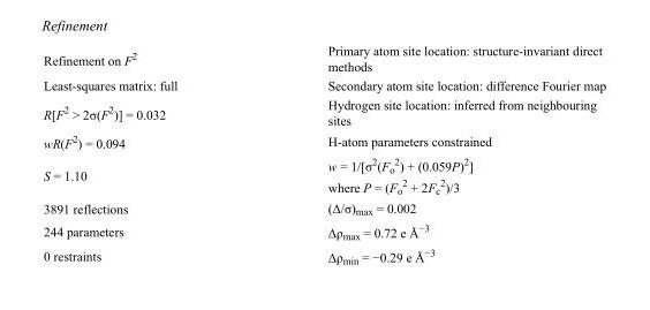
<table><tbody><tr><td>Refinement on F<sup>2</sup></td><td>Primary atom site location: structure-invariant direct methods</td></tr><tr><td>Least-squares matrix: full</td><td>Secondary atom site location: difference Fourier map</td></tr><tr><td>R[F<sup>2</sup> &gt; 2σ(F<sup>2</sup>)] = 0.032</td><td>Hydrogen site location: inferred from neighbouring sites</td></tr><tr><td>wR(F<sup>2</sup>) = 0.094</td><td>H-atom parameters constrained</td></tr><tr><td>S = 1.10</td><td>w = 1/[σ<sup>2</sup>(F<sub>o</sub> <sup>2</sup>) + (0.059P)<sup>2</sup>] where P = (F<sub>o</sub> <sup>2</sup> + 2F<sub>c</sub> <sup>2</sup>)/3</td></tr><tr><td>3891 reflections</td><td>(Δ/σ)<sub>max</sub> = 0.002</td></tr><tr><td>244 parameters</td><td>Δρ<sub>max</sub> = 0.72 e Å<sup>−3</sup></td></tr><tr><td>0 restraints</td><td>Δρ<sub>min</sub> = −0.29 e Å<sup>−3</sup></td></tr></tbody></table>